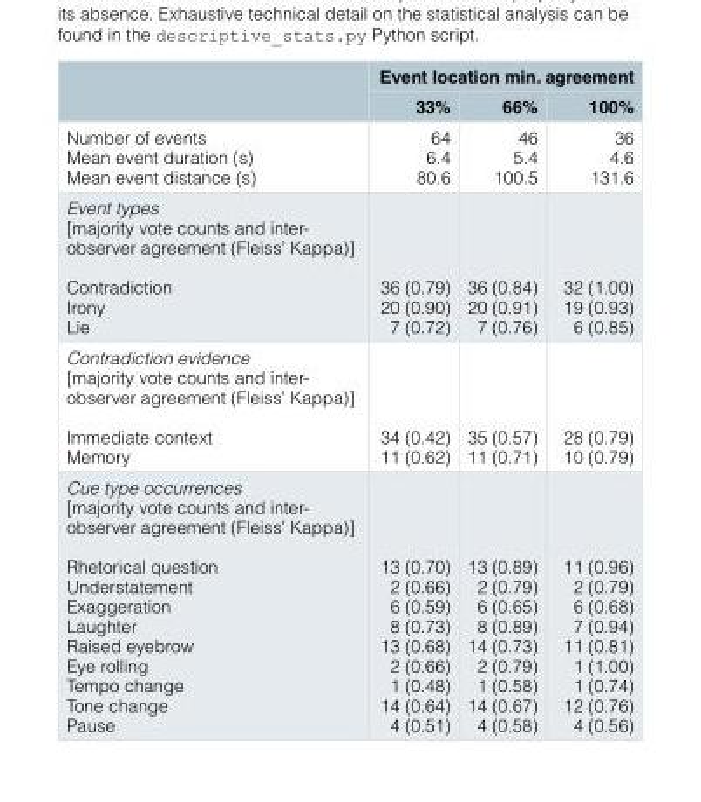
<table><thead><tr><td rowspan="2"></td><td colspan="3">Event location min. agreement</td></tr><tr><td>33%</td><td>66%</td><td>100%</td></tr></thead><tbody><tr><td>Number of events Mean event duration (s) Mean event distance (s)</td><td>64 6.4 80.6</td><td>46 5.4 100.5</td><td>36 4.6 131.6</td></tr><tr><td colspan="4">Event types [majority vote counts and inter- observer agreement (Fleiss’ Kappa)]</td></tr><tr><td>Contradiction Irony Lie</td><td>36 (0.79) 20 (0.90) 7 (0.72)</td><td>36 (0.84) 20 (0.91) 7 (0.76)</td><td>32 (1.00) 19 (0.93) 6 (0.85)</td></tr><tr><td colspan="4">Contradiction evidence [majority vote counts and inter- observer agreement (Fleiss’ Kappa)]</td></tr><tr><td>Immediate context Memory</td><td>34 (0.42) 11 (0.62)</td><td>35 (0.57) 11 (0.71)</td><td>28 (0.79) 10 (0.79)</td></tr><tr><td colspan="4">Cue type occurrences [majority vote counts and inter- observer agreement (Fleiss’ Kappa)]</td></tr><tr><td>Rhetorical question Understatement Exaggeration Laughter Raised eyebrow Eye rolling Tempo change Tone change Pause</td><td>13 (0.70) 2 (0.66) 6 (0.59) 8 (0.73) 13 (0.68) 2 (0.66) 1 (0.48) 14 (0.64) 4 (0.51)</td><td>13 (0.89) 2 (0.79) 6 (0.65) 8 (0.89) 14 (0.73) 2 (0.79) 1 (0.58) 14 (0.67) 4 (0.58)</td><td>11 (0.96) 2 (0.79) 6 (0.68) 7 (0.94) 11 (0.81) 1 (1.00) 1 (0.74) 12 (0.76) 4 (0.56)</td></tr></tbody></table>